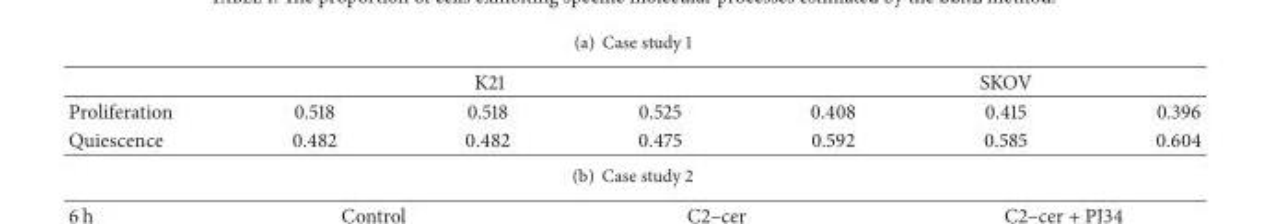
<table><thead><tr><td rowspan="2">Proliferation</td><td colspan="3">K21</td><td colspan="3">SKOV</td></tr><tr><td>0.518</td><td>0.518</td><td>0.525</td><td>0.408</td><td>0.415</td><td>0.396</td></tr></thead><tbody><tr><td>Quiescence</td><td>0.482</td><td>0.482</td><td>0.475</td><td>0.592</td><td>0.585</td><td>0.604</td></tr></tbody></table>